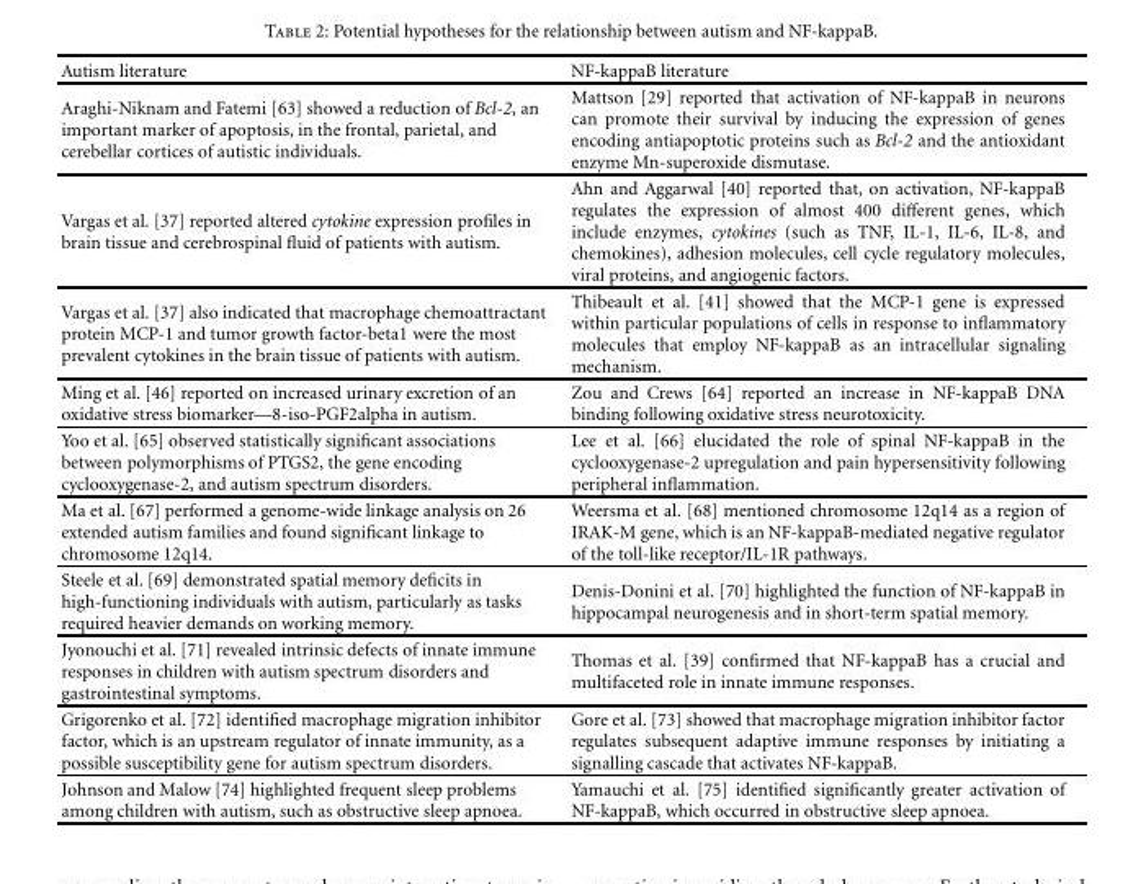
<table><thead><tr><td>Autism literature</td><td>NF-kappaB literature</td></tr></thead><tbody><tr><td>Araghi-Niknam and Fatemi [63] showed a reduction of Bcl-2, an important marker of apoptosis, in the frontal, parietal, and cerebellar cortices of autistic individuals.</td><td>Mattson [29] reported that activation of NF-kappaB in neurons can promote their survival by inducing the expression of genes encoding antiapoptotic proteins such as Bcl-2 and the antioxidant enzyme Mn-superoxide dismutase.</td></tr><tr><td>Vargas et al. [37] reported altered cytokine expression profiles in brain tissue and cerebrospinal fluid of patients with autism.</td><td>Ahn and Aggarwal [40] reported that, on activation, NF-kappaB regulates the expression of almost 400 different genes, which include enzymes, cytokines (such as TNF, IL-1, IL-6, IL-8, and chemokines), adhesion molecules, cell cycle regulatory molecules, viral proteins, and angiogenic factors.</td></tr><tr><td>Vargas et al. [37] also indicated that macrophage chemoattractant protein MCP-1 and tumor growth factor-beta1 were the most prevalent cytokines in the brain tissue of patients with autism.</td><td>Thibeault et al. [41] showed that the MCP-1 gene is expressed within particular populations of cells in response to inflammatory molecules that employ NF-kappaB as an intracellular signaling mechanism.</td></tr><tr><td>Ming et al. [46] reported on increased urinary excretion of an oxidative stress biomarker—8-iso-PGF2alpha in autism.</td><td>Zou and Crews [64] reported an increase in NF-kappaB DNA binding following oxidative stress neurotoxicity.</td></tr><tr><td>Yoo et al. [65] observed statistically significant associations between polymorphisms of PTGS2, the gene encoding cyclooxygenase-2, and autism spectrum disorders.</td><td>Lee et al. [66] elucidated the role of spinal NF-kappaB in the cyclooxygenase-2 upregulation and pain hypersensitivity following peripheral inflammation.</td></tr><tr><td>Ma et al. [67] performed a genome-wide linkage analysis on 26 extended autism families and found significant linkage to chromosome 12q14.</td><td>Weersma et al. [68] mentioned chromosome 12q14 as a region of IRAK-M gene, which is an NF-kappaB-mediated negative regulator of the toll-like receptor/IL-1R pathways.</td></tr><tr><td>Steele et al. [69] demonstrated spatial memory deficits in high-functioning individuals with autism, particularly as tasks required heavier demands on working memory.</td><td>Denis-Donini et al. [70] highlighted the function of NF-kappaB in hippocampal neurogenesis and in short-term spatial memory.</td></tr><tr><td>Jyonouchi et al. [71] revealed intrinsic defects of innate immune responses in children with autism spectrum disorders and gastrointestinal symptoms.</td><td>Thomas et al. [39] confirmed that NF-kappaB has a crucial and multifaceted role in innate immune responses.</td></tr><tr><td>Grigorenko et al. [72] identified macrophage migration inhibitor factor, which is an upstream regulator of innate immunity, as a possible susceptibility gene for autism spectrum disorders.</td><td>Gore et al. [73] showed that macrophage migration inhibitor factor regulates subsequent adaptive immune responses by initiating a signalling cascade that activates NF-kappaB.</td></tr><tr><td>Johnson and Malow [74] highlighted frequent sleep problems among children with autism, such as obstructive sleep apnoea.</td><td>Yamauchi et al. [75] identified significantly greater activation of NF-kappaB, which occurred in obstructive sleep apnoea.</td></tr></tbody></table>